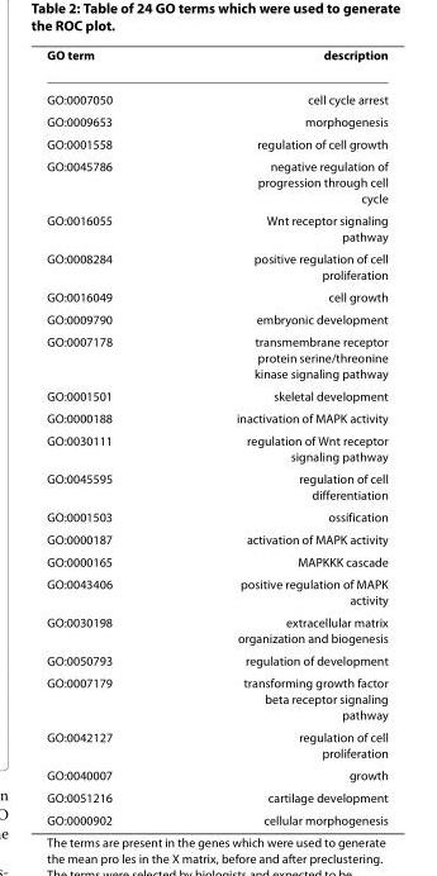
<table><thead><tr><td>GO term</td><td>description</td></tr></thead><tbody><tr><td>GO:0007050</td><td>cell cycle arrest</td></tr><tr><td>GO:0009653</td><td>morphogenesis</td></tr><tr><td>GO:0001558</td><td>regulation of cell growth</td></tr><tr><td>GO:0045786</td><td>negative regulation of progression through cell cycle</td></tr><tr><td>GO:0016055</td><td>Wnt receptor signaling pathway</td></tr><tr><td>GO:0008284</td><td>positive regulation of cell proliferation</td></tr><tr><td>GO:0016049</td><td>cell growth</td></tr><tr><td>GO:0009790</td><td>embryonic development</td></tr><tr><td>GO:0007178</td><td>transmembrane receptor protein serine/threonine kinase signaling pathway</td></tr><tr><td>GO:0001501</td><td>skeletal development</td></tr><tr><td>GO:0000188</td><td>inactivation of MAPK activity</td></tr><tr><td>GO:0030111</td><td>regulation of Wnt receptor signaling pathway</td></tr><tr><td>GO:0045595</td><td>regulation of cell differentiation</td></tr><tr><td>GO:0001503</td><td>ossification</td></tr><tr><td>GO:0000187</td><td>activation of MAPK activity</td></tr><tr><td>GO:0000165</td><td>MAPKKK cascade</td></tr><tr><td>GO:0043406</td><td>positive regulation of MAPK activity</td></tr><tr><td>GO:0030198</td><td>extracellular matrix organization and biogenesis</td></tr><tr><td>GO:0050793</td><td>regulation of development</td></tr><tr><td>GO:0007179</td><td>transforming growth factor beta receptor signaling pathway</td></tr><tr><td>GO:0042127</td><td>regulation of cell proliferation</td></tr><tr><td>GO:0040007</td><td>growth</td></tr><tr><td>GO:0051216</td><td>cartilage development</td></tr><tr><td>GO:0000902</td><td>cellular morphogenesis</td></tr></tbody></table>